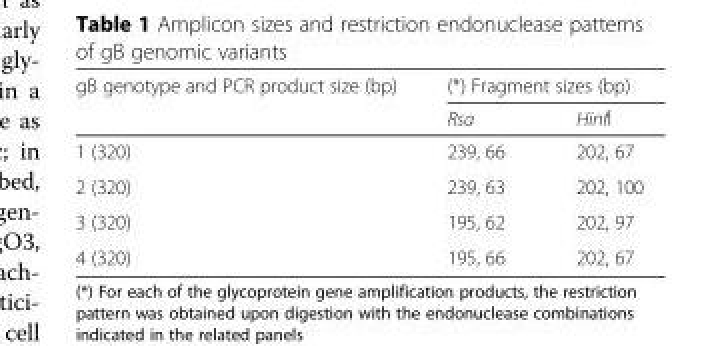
<table><thead><tr><td rowspan="2">gB genotype and PCR product size (bp)</td><td colspan="2">(*) Fragment sizes (bp)</td></tr><tr><td>Rsa</td><td>HinfI</td></tr></thead><tbody><tr><td>1 (320)</td><td>239, 66</td><td>202, 67</td></tr><tr><td>2 (320)</td><td>239, 63</td><td>202, 100</td></tr><tr><td>3 (320)</td><td>195, 62</td><td>202, 97</td></tr><tr><td>4 (320)</td><td>195, 66</td><td>202, 67</td></tr></tbody></table>